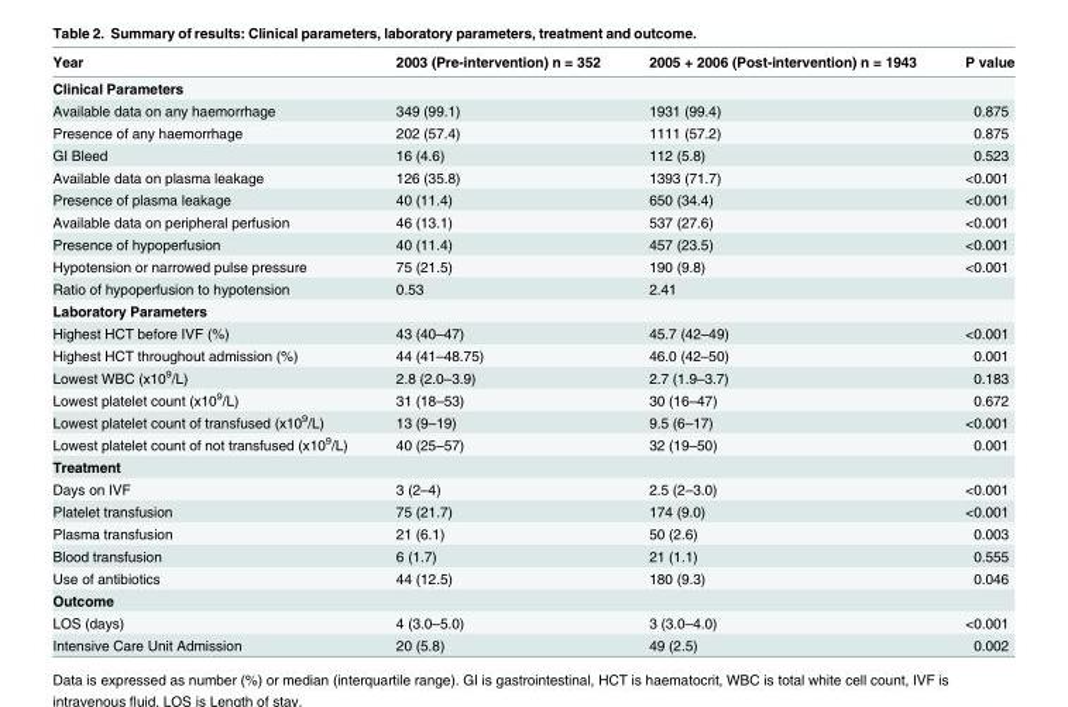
<table><thead><tr><td>Year</td><td>2003 (Pre-intervention) n = 352</td><td>2005 + 2006 (Post-intervention) n = 1943</td><td>P value</td></tr></thead><tbody><tr><td colspan="4">Clinical Parameters</td></tr><tr><td>Available data on any haemorrhage</td><td>349 (99.1)</td><td>1931 (99.4)</td><td>0.875</td></tr><tr><td>Presence of any haemorrhage</td><td>202 (57.4)</td><td>1111 (57.2)</td><td>0.875</td></tr><tr><td>GI Bleed</td><td>16 (4.6)</td><td>112 (5.8)</td><td>0.523</td></tr><tr><td>Available data on plasma leakage</td><td>126 (35.8)</td><td>1393 (71.7)</td><td>&lt;0.001</td></tr><tr><td>Presence of plasma leakage</td><td>40 (11.4)</td><td>650 (34.4)</td><td>&lt;0.001</td></tr><tr><td>Available data on peripheral perfusion</td><td>46 (13.1)</td><td>537 (27.6)</td><td>&lt;0.001</td></tr><tr><td>Presence of hypoperfusion</td><td>40 (11.4)</td><td>457 (23.5)</td><td>&lt;0.001</td></tr><tr><td>Hypotension or narrowed pulse pressure</td><td>75 (21.5)</td><td>190 (9.8)</td><td>&lt;0.001</td></tr><tr><td>Ratio of hypoperfusion to hypotension</td><td>0.53</td><td>2.41</td><td></td></tr><tr><td colspan="4">Laboratory Parameters</td></tr><tr><td>Highest HCT before IVF (%)</td><td>43 (40–47)</td><td>45.7 (42–49)</td><td>&lt;0.001</td></tr><tr><td>Highest HCT throughout admission (%)</td><td>44 (41–48.75)</td><td>46.0 (42–50)</td><td>0.001</td></tr><tr><td>Lowest WBC (x10<sup>9</sup>/L)</td><td>2.8 (2.0–3.9)</td><td>2.7 (1.9–3.7)</td><td>0.183</td></tr><tr><td>Lowest platelet count (x10<sup>9</sup>/L)</td><td>31 (18–53)</td><td>30 (16–47)</td><td>0.672</td></tr><tr><td>Lowest platelet count of transfused (x10<sup>9</sup>/L)</td><td>13 (9–19)</td><td>9.5 (6–17)</td><td>&lt;0.001</td></tr><tr><td>Lowest platelet count of not transfused (x10<sup>9</sup>/L)</td><td>40 (25–57)</td><td>32 (19–50)</td><td>0.001</td></tr><tr><td colspan="4">Treatment</td></tr><tr><td>Days on IVF</td><td>3 (2–4)</td><td>2.5 (2–3.0)</td><td>&lt;0.001</td></tr><tr><td>Platelet transfusion</td><td>75 (21.7)</td><td>174 (9.0)</td><td>&lt;0.001</td></tr><tr><td>Plasma transfusion</td><td>21 (6.1)</td><td>50 (2.6)</td><td>0.003</td></tr><tr><td>Blood transfusion</td><td>6 (1.7)</td><td>21 (1.1)</td><td>0.555</td></tr><tr><td>Use of antibiotics</td><td>44 (12.5)</td><td>180 (9.3)</td><td>0.046</td></tr><tr><td colspan="4">Outcome</td></tr><tr><td>LOS (days)</td><td>4 (3.0–5.0)</td><td>3 (3.0–4.0)</td><td>&lt;0.001</td></tr><tr><td>Intensive Care Unit Admission</td><td>20 (5.8)</td><td>49 (2.5)</td><td>0.002</td></tr></tbody></table>